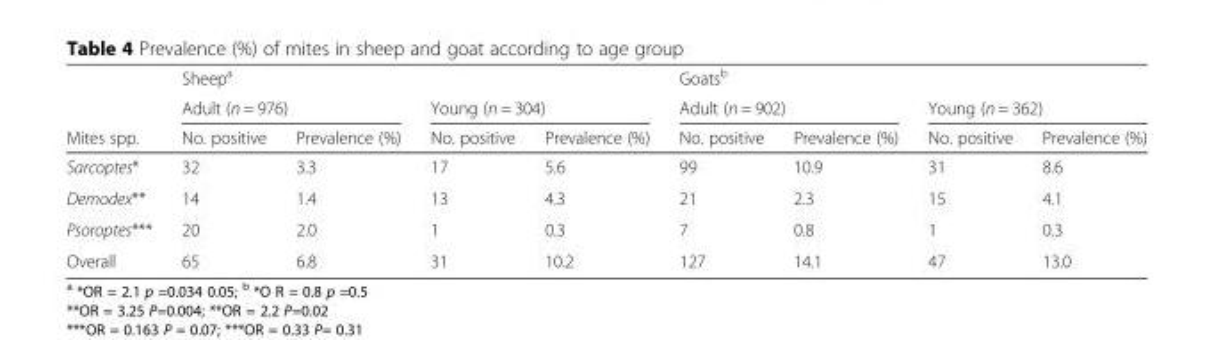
<table><thead><tr><td rowspan="3">Mites spp.</td><td colspan="4">Sheep<sup>a</sup></td><td colspan="4">Goats<sup>b</sup></td></tr><tr><td colspan="2">Adult (n = 976)</td><td colspan="2">Young (n = 304)</td><td colspan="2">Adult (n = 902)</td><td colspan="2">Young (n = 362)</td></tr><tr><td>No. positive</td><td>Prevalence (%)</td><td>No. positive</td><td>Prevalence (%)</td><td>No. positive</td><td>Prevalence (%)</td><td>No. positive</td><td>Prevalence (%)</td></tr></thead><tbody><tr><td>Sarcoptes*</td><td>32</td><td>3.3</td><td>17</td><td>5.6</td><td>99</td><td>10.9</td><td>31</td><td>8.6</td></tr><tr><td>Demodex**</td><td>14</td><td>1.4</td><td>13</td><td>4.3</td><td>21</td><td>2.3</td><td>15</td><td>4.1</td></tr><tr><td>Psoroptes***</td><td>20</td><td>2.0</td><td>1</td><td>0.3</td><td>7</td><td>0.8</td><td>1</td><td>0.3</td></tr><tr><td>Overall</td><td>65</td><td>6.8</td><td>31</td><td>10.2</td><td>127</td><td>14.1</td><td>47</td><td>13.0</td></tr></tbody></table>